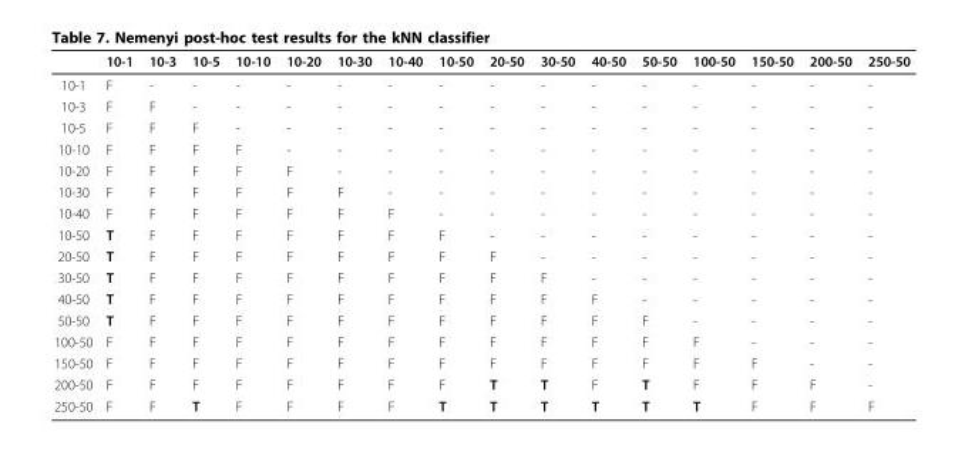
<table><thead><tr><td></td><td>10-1</td><td>10-3</td><td>10-5</td><td>10-10</td><td>10-20</td><td>10-30</td><td>10-40</td><td>10-50</td><td>20-50</td><td>30-50</td><td>40-50</td><td>50-50</td><td>100-50</td><td>150-50</td><td>200-50</td><td>250-50</td></tr></thead><tbody><tr><td>10-1</td><td>F</td><td>-</td><td>-</td><td>-</td><td>-</td><td>-</td><td>-</td><td>-</td><td>-</td><td>-</td><td>-</td><td>-</td><td>-</td><td>-</td><td>-</td><td>-</td></tr><tr><td>10-3</td><td>F</td><td>F</td><td>-</td><td>-</td><td>-</td><td>-</td><td>-</td><td>-</td><td>-</td><td>-</td><td>-</td><td>-</td><td>-</td><td>-</td><td>-</td><td>-</td></tr><tr><td>10-5</td><td>F</td><td>F</td><td>F</td><td>-</td><td>-</td><td>-</td><td>-</td><td>-</td><td>-</td><td>-</td><td>-</td><td>-</td><td>-</td><td>-</td><td>-</td><td>-</td></tr><tr><td>10-10</td><td>F</td><td>F</td><td>F</td><td>F</td><td>-</td><td>-</td><td>-</td><td>-</td><td>-</td><td>-</td><td>-</td><td>-</td><td>-</td><td>-</td><td>-</td><td>-</td></tr><tr><td>10-20</td><td>F</td><td>F</td><td>F</td><td>F</td><td>F</td><td>-</td><td>-</td><td>-</td><td>-</td><td>-</td><td>-</td><td>-</td><td>-</td><td>-</td><td>-</td><td>-</td></tr><tr><td>10-30</td><td>F</td><td>F</td><td>F</td><td>F</td><td>F</td><td>F</td><td>-</td><td>-</td><td>-</td><td>-</td><td>-</td><td>-</td><td>-</td><td>-</td><td>-</td><td>-</td></tr><tr><td>10-40</td><td>F</td><td>F</td><td>F</td><td>F</td><td>F</td><td>F</td><td>F</td><td>-</td><td>-</td><td>-</td><td>-</td><td>-</td><td>-</td><td>-</td><td>-</td><td>-</td></tr><tr><td>10-50</td><td>T</td><td>F</td><td>F</td><td>F</td><td>F</td><td>F</td><td>F</td><td>F</td><td>-</td><td>-</td><td>-</td><td>-</td><td>-</td><td>-</td><td>-</td><td>-</td></tr><tr><td>20-50</td><td>T</td><td>F</td><td>F</td><td>F</td><td>F</td><td>F</td><td>F</td><td>F</td><td>F</td><td>-</td><td>-</td><td>-</td><td>-</td><td>-</td><td>-</td><td>-</td></tr><tr><td>30-50</td><td>T</td><td>F</td><td>F</td><td>F</td><td>F</td><td>F</td><td>F</td><td>F</td><td>F</td><td>F</td><td>-</td><td>-</td><td>-</td><td>-</td><td>-</td><td>-</td></tr><tr><td>40-50</td><td>T</td><td>F</td><td>F</td><td>F</td><td>F</td><td>F</td><td>F</td><td>F</td><td>F</td><td>F</td><td>F</td><td>-</td><td>-</td><td>-</td><td>-</td><td>-</td></tr><tr><td>50-50</td><td>T</td><td>F</td><td>F</td><td>F</td><td>F</td><td>F</td><td>F</td><td>F</td><td>F</td><td>F</td><td>F</td><td>F</td><td>-</td><td>-</td><td>-</td><td>-</td></tr><tr><td>100-50</td><td>F</td><td>F</td><td>F</td><td>F</td><td>F</td><td>F</td><td>F</td><td>F</td><td>F</td><td>F</td><td>F</td><td>F</td><td>F</td><td>-</td><td>-</td><td>-</td></tr><tr><td>150-50</td><td>F</td><td>F</td><td>F</td><td>F</td><td>F</td><td>F</td><td>F</td><td>F</td><td>F</td><td>F</td><td>F</td><td>F</td><td>F</td><td>F</td><td>-</td><td>-</td></tr><tr><td>200-50</td><td>F</td><td>F</td><td>F</td><td>F</td><td>F</td><td>F</td><td>F</td><td>F</td><td>T</td><td>T</td><td>F</td><td>T</td><td>F</td><td>F</td><td>F</td><td>-</td></tr><tr><td>250-50</td><td>F</td><td>F</td><td>T</td><td>F</td><td>F</td><td>F</td><td>F</td><td>T</td><td>T</td><td>T</td><td>T</td><td>T</td><td>T</td><td>F</td><td>F</td><td>F</td></tr></tbody></table>